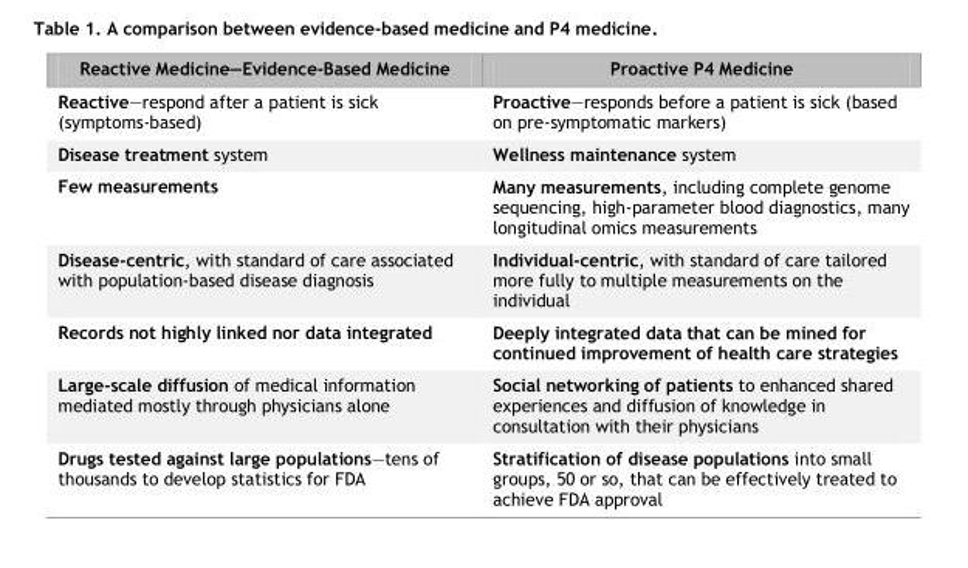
<table><thead><tr><td>Reactive Medicine—Evidence-Based Medicine</td><td>Proactive P4 Medicine</td></tr></thead><tbody><tr><td>Reactive—respond after a patient is sick (symptoms-based)</td><td>Proactive—responds before a patient is sick (based on pre-symptomatic markers)</td></tr><tr><td>Disease treatment system</td><td>Wellness maintenance system</td></tr><tr><td>Few measurements</td><td>Many measurements, including complete genome sequencing, high-parameter blood diagnostics, many longitudinal omics measurements</td></tr><tr><td>Disease-centric, with standard of care associated with population-based disease diagnosis</td><td>Individual-centric, with standard of care tailored more fully to multiple measurements on the individual</td></tr><tr><td>Records not highly linked nor data integrated</td><td>Deeply integrated data that can be mined for continued improvement of health care strategies</td></tr><tr><td>Large-scale diffusion of medical information mediated mostly through physicians alone</td><td>Social networking of patients to enhanced shared experiences and diffusion of knowledge in consultation with their physicians</td></tr><tr><td>Drugs tested against large populations—tens of thousands to develop statistics for FDA</td><td>Stratification of disease populations into small groups, 50 or so, that can be effectively treated to achieve FDA approval</td></tr></tbody></table>